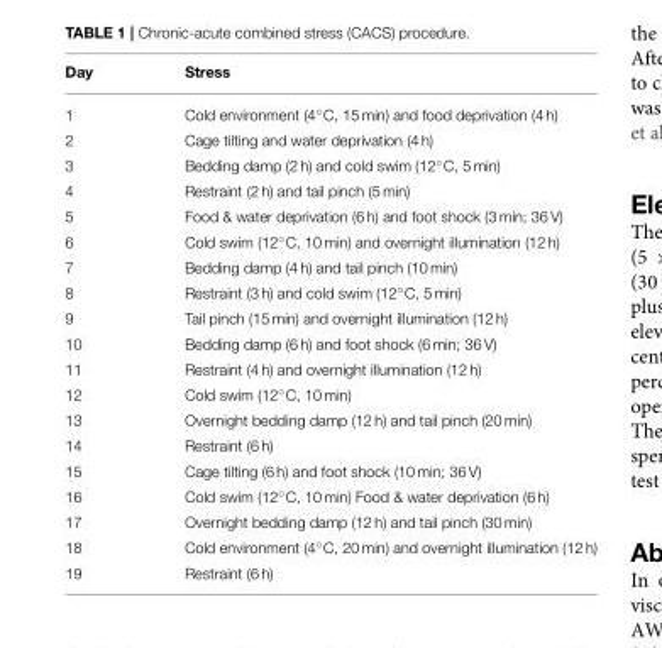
<table><thead><tr><td>Day</td><td>Stress</td></tr></thead><tbody><tr><td>1</td><td>Cold environment (4◦C, 15 min) and food deprivation (4 h)</td></tr><tr><td>2</td><td>Cage tilting and water deprivation (4 h)</td></tr><tr><td>3</td><td>Bedding damp (2 h) and cold swim (12◦C, 5 min)</td></tr><tr><td>4</td><td>Restraint (2 h) and tail pinch (5 min)</td></tr><tr><td>5</td><td>Food &amp; water deprivation (6 h) and foot shock (3 min; 36 V)</td></tr><tr><td>6</td><td>Cold swim (12◦C, 10 min) and overnight illumination (12 h)</td></tr><tr><td>7</td><td>Bedding damp (4 h) and tail pinch (10 min)</td></tr><tr><td>8</td><td>Restraint (3 h) and cold swim (12◦C, 5 min)</td></tr><tr><td>9</td><td>Tail pinch (15 min) and overnight illumination (12 h)</td></tr><tr><td>10</td><td>Bedding damp (6 h) and foot shock (6 min; 36 V)</td></tr><tr><td>11</td><td>Restraint (4 h) and overnight illumination (12 h)</td></tr><tr><td>12</td><td>Cold swim (12◦C, 10 min)</td></tr><tr><td>13</td><td>Overnight bedding damp (12 h) and tail pinch (20 min)</td></tr><tr><td>14</td><td>Restraint (6 h)</td></tr><tr><td>15</td><td>Cage tilting (6 h) and foot shock (10 min; 36 V)</td></tr><tr><td>16</td><td>Cold swim (12◦C, 10 min) Food &amp; water deprivation (6 h)</td></tr><tr><td>17</td><td>Overnight bedding damp (12 h) and tail pinch (30 min)</td></tr><tr><td>18</td><td>Cold environment (4◦C, 20 min) and overnight illumination (12 h)</td></tr><tr><td>19</td><td>Restraint (6 h)</td></tr></tbody></table>